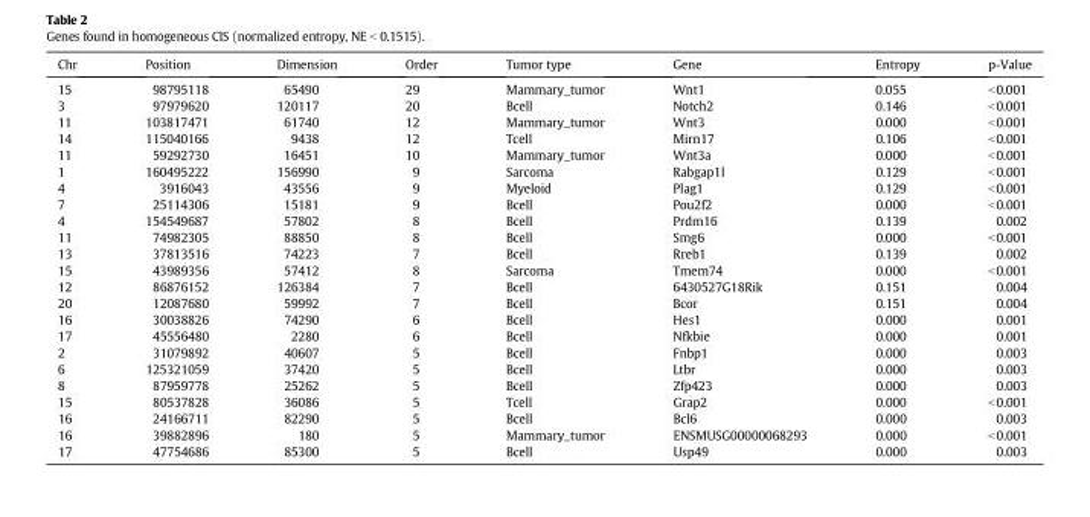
<table><thead><tr><td>Chr</td><td>Position</td><td>Dimension</td><td>Order</td><td>Tumor type</td><td>Gene</td><td>Entropy</td><td>p-Value</td></tr></thead><tbody><tr><td>15</td><td>98795118</td><td>65490</td><td>29</td><td>Mammary_tumor</td><td>Wnt1</td><td>0.055</td><td>&lt;0.001</td></tr><tr><td>3</td><td>97979620</td><td>120117</td><td>20</td><td>Bcell</td><td>Notch2</td><td>0.146</td><td>&lt;0.001</td></tr><tr><td>11</td><td>103817471</td><td>61740</td><td>12</td><td>Mammary_tumor</td><td>Wnt3</td><td>0.000</td><td>&lt;0.001</td></tr><tr><td>14</td><td>115040166</td><td>9438</td><td>12</td><td>Tcell</td><td>Mirn17</td><td>0.106</td><td>&lt;0.001</td></tr><tr><td>11</td><td>59292730</td><td>16451</td><td>10</td><td>Mammary_tumor</td><td>Wnt3a</td><td>0.000</td><td>&lt;0.001</td></tr><tr><td>1</td><td>160495222</td><td>156990</td><td>9</td><td>Sarcoma</td><td>Rabgap1l</td><td>0.129</td><td>&lt;0.001</td></tr><tr><td>4</td><td>3916043</td><td>43556</td><td>9</td><td>Myeloid</td><td>Plag1</td><td>0.129</td><td>&lt;0.001</td></tr><tr><td>7</td><td>25114306</td><td>15181</td><td>9</td><td>Bcell</td><td>Pou2f2</td><td>0.000</td><td>&lt;0.001</td></tr><tr><td>4</td><td>154549687</td><td>57802</td><td>8</td><td>Bcell</td><td>Prdm16</td><td>0.139</td><td>0.002</td></tr><tr><td>11</td><td>74982305</td><td>88850</td><td>8</td><td>Bcell</td><td>Smg6</td><td>0.000</td><td>&lt;0.001</td></tr><tr><td>13</td><td>37813516</td><td>74223</td><td>7</td><td>Bcell</td><td>Rreb1</td><td>0.139</td><td>0.002</td></tr><tr><td>15</td><td>43989356</td><td>57412</td><td>8</td><td>Sarcoma</td><td>Tmem74</td><td>0.000</td><td>&lt;0.001</td></tr><tr><td>12</td><td>86876152</td><td>126384</td><td>7</td><td>Bcell</td><td>6430527G18Rik</td><td>0.151</td><td>0.004</td></tr><tr><td>20</td><td>12087680</td><td>59992</td><td>7</td><td>Bcell</td><td>Bcor</td><td>0.151</td><td>0.004</td></tr><tr><td>16</td><td>30038826</td><td>74290</td><td>6</td><td>Bcell</td><td>Hes1</td><td>0.000</td><td>0.001</td></tr><tr><td>17</td><td>45556480</td><td>2280</td><td>6</td><td>Bcell</td><td>Nfkbie</td><td>0.000</td><td>0.001</td></tr><tr><td>2</td><td>31079892</td><td>40607</td><td>5</td><td>Bcell</td><td>Fnbp1</td><td>0.000</td><td>0.003</td></tr><tr><td>6</td><td>125321059</td><td>37420</td><td>5</td><td>Bcell</td><td>Ltbr</td><td>0.000</td><td>0.003</td></tr><tr><td>8</td><td>87959778</td><td>25262</td><td>5</td><td>Bcell</td><td>Zfp423</td><td>0.000</td><td>0.003</td></tr><tr><td>15</td><td>80537828</td><td>36086</td><td>5</td><td>Tcell</td><td>Grap2</td><td>0.000</td><td>&lt;0.001</td></tr><tr><td>16</td><td>24166711</td><td>82290</td><td>5</td><td>Bcell</td><td>Bcl6</td><td>0.000</td><td>0.003</td></tr><tr><td>16</td><td>39882896</td><td>180</td><td>5</td><td>Mammary_tumor</td><td>ENSMUSG00000068293</td><td>0.000</td><td>&lt;0.001</td></tr><tr><td>17</td><td>47754686</td><td>85300</td><td>5</td><td>Bcell</td><td>Usp49</td><td>0.000</td><td>0.003</td></tr></tbody></table>